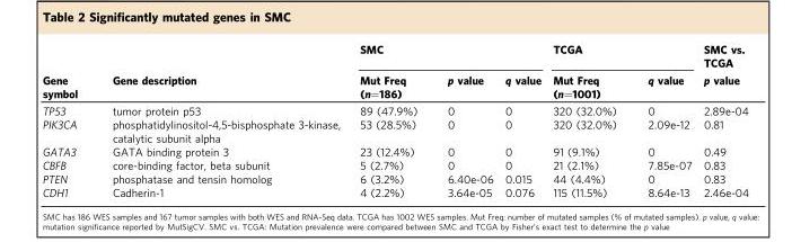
<table><thead><tr><td rowspan="2">Gene symbol</td><td rowspan="2">Gene description</td><td colspan="3">SMC</td><td colspan="2">TCGA</td><td rowspan="2">SMC vs. TCGA p value</td></tr><tr><td>Mut Freq (n=186)</td><td>p value</td><td>q value</td><td>Mut Freq (n=1001)</td><td>q value</td></tr></thead><tbody><tr><td>TP53</td><td>tumor protein p53</td><td>89 (47.9%)</td><td>0</td><td>0</td><td>320 (32.0%)</td><td>0</td><td>2.89e-04</td></tr><tr><td>PIK3CA</td><td>phosphatidylinositol-4,5-bisphosphate 3-kinase, catalytic subunit alpha</td><td>53 (28.5%)</td><td>0</td><td>0</td><td>320 (32.0%)</td><td>2.09e-12</td><td>0.81</td></tr><tr><td>GATA3</td><td>GATA binding protein 3</td><td>23 (12.4%)</td><td>0</td><td>0</td><td>91 (9.1%)</td><td>0</td><td>0.49</td></tr><tr><td>CBFB</td><td>core-binding factor, beta subunit</td><td>5 (2.7%)</td><td>0</td><td>0</td><td>21 (2.1%)</td><td>7.85e-07</td><td>0.83</td></tr><tr><td>PTEN</td><td>phosphatase and tensin homolog</td><td>6 (3.2%)</td><td>6.40e-06</td><td>0.015</td><td>44 (4.4%)</td><td>0</td><td>0.83</td></tr><tr><td>CDH1</td><td>Cadherin-1</td><td>4 (2.2%)</td><td>3.64e-05</td><td>0.076</td><td>115 (11.5%)</td><td>8.64e-13</td><td>2.46e-04</td></tr></tbody></table>